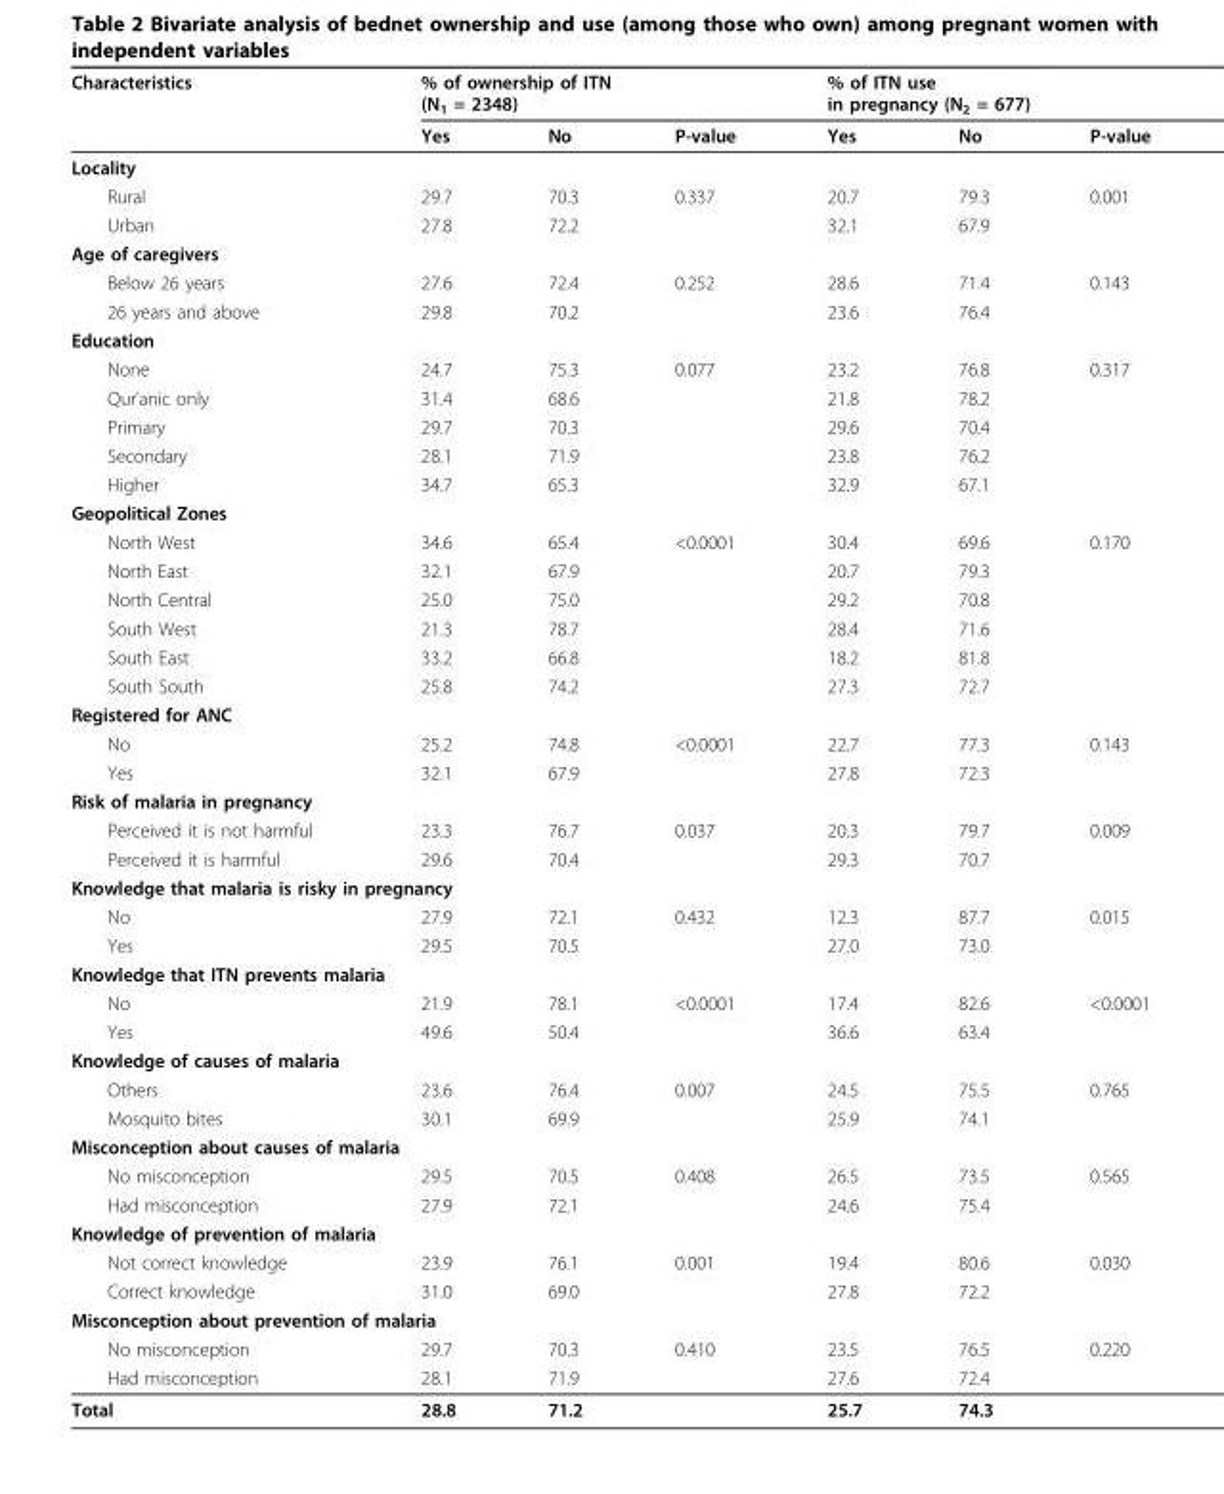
<table><thead><tr><td rowspan="2">Characteristics</td><td colspan="3">% of ownership of ITN (N<sub>1</sub> = 2348)</td><td colspan="3">% of ITN use in pregnancy (N<sub>2</sub> = 677)</td></tr><tr><td>Yes</td><td>No</td><td>P-value</td><td>Yes</td><td>No</td><td>P-value</td></tr></thead><tbody><tr><td colspan="7">Locality</td></tr><tr><td>Rural</td><td>29.7</td><td>70.3</td><td>0.337</td><td>20.7</td><td>79.3</td><td>0.001</td></tr><tr><td>Urban</td><td>27.8</td><td>72.2</td><td></td><td>32.1</td><td>67.9</td><td></td></tr><tr><td colspan="7">Age of caregivers</td></tr><tr><td>Below 26 years</td><td>27.6</td><td>72.4</td><td>0.252</td><td>28.6</td><td>71.4</td><td>0.143</td></tr><tr><td>26 years and above</td><td>29.8</td><td>70.2</td><td></td><td>23.6</td><td>76.4</td><td></td></tr><tr><td colspan="7">Education</td></tr><tr><td>None</td><td>24.7</td><td>75.3</td><td>0.077</td><td>23.2</td><td>76.8</td><td>0.317</td></tr><tr><td>Qur’anic only</td><td>31.4</td><td>68.6</td><td></td><td>21.8</td><td>78.2</td><td></td></tr><tr><td>Primary</td><td>29.7</td><td>70.3</td><td></td><td>29.6</td><td>70.4</td><td></td></tr><tr><td>Secondary</td><td>28.1</td><td>71.9</td><td></td><td>23.8</td><td>76.2</td><td></td></tr><tr><td>Higher</td><td>34.7</td><td>65.3</td><td></td><td>32.9</td><td>67.1</td><td></td></tr><tr><td colspan="7">Geopolitical Zones</td></tr><tr><td>North West</td><td>34.6</td><td>65.4</td><td>&lt;0.0001</td><td>30.4</td><td>69.6</td><td>0.170</td></tr><tr><td>North East</td><td>32.1</td><td>67.9</td><td></td><td>20.7</td><td>79.3</td><td></td></tr><tr><td>North Central</td><td>25.0</td><td>75.0</td><td></td><td>29.2</td><td>70.8</td><td></td></tr><tr><td>South West</td><td>21.3</td><td>78.7</td><td></td><td>28.4</td><td>71.6</td><td></td></tr><tr><td>South East</td><td>33.2</td><td>66.8</td><td></td><td>18.2</td><td>81.8</td><td></td></tr><tr><td>South South</td><td>25.8</td><td>74.2</td><td></td><td>27.3</td><td>72.7</td><td></td></tr><tr><td colspan="7">Registered for ANC</td></tr><tr><td>No</td><td>25.2</td><td>74.8</td><td>&lt;0.0001</td><td>22.7</td><td>77.3</td><td>0.143</td></tr><tr><td>Yes</td><td>32.1</td><td>67.9</td><td></td><td>27.8</td><td>72.3</td><td></td></tr><tr><td colspan="7">Risk of malaria in pregnancy</td></tr><tr><td>Perceived it is not harmful</td><td>23.3</td><td>76.7</td><td>0.037</td><td>20.3</td><td>79.7</td><td>0.009</td></tr><tr><td>Perceived it is harmful</td><td>29.6</td><td>70.4</td><td></td><td>29.3</td><td>70.7</td><td></td></tr><tr><td colspan="7">Knowledge that malaria is risky in pregnancy</td></tr><tr><td>No</td><td>27.9</td><td>72.1</td><td>0.432</td><td>12.3</td><td>87.7</td><td>0.015</td></tr><tr><td>Yes</td><td>29.5</td><td>70.5</td><td></td><td>27.0</td><td>73.0</td><td></td></tr><tr><td colspan="7">Knowledge that ITN prevents malaria</td></tr><tr><td>No</td><td>21.9</td><td>78.1</td><td>&lt;0.0001</td><td>17.4</td><td>82.6</td><td>&lt;0.0001</td></tr><tr><td>Yes</td><td>49.6</td><td>50.4</td><td></td><td>36.6</td><td>63.4</td><td></td></tr><tr><td colspan="7">Knowledge of causes of malaria</td></tr><tr><td>Others</td><td>23.6</td><td>76.4</td><td>0.007</td><td>24.5</td><td>75.5</td><td>0.765</td></tr><tr><td>Mosquito bites</td><td>30.1</td><td>69.9</td><td></td><td>25.9</td><td>74.1</td><td></td></tr><tr><td colspan="7">Misconception about causes of malaria</td></tr><tr><td>No misconception</td><td>29.5</td><td>70.5</td><td>0.408</td><td>26.5</td><td>73.5</td><td>0.565</td></tr><tr><td>Had misconception</td><td>27.9</td><td>72.1</td><td></td><td>24.6</td><td>75.4</td><td></td></tr><tr><td colspan="7">Knowledge of prevention of malaria</td></tr><tr><td>Not correct knowledge</td><td>23.9</td><td>76.1</td><td>0.001</td><td>19.4</td><td>80.6</td><td>0.030</td></tr><tr><td>Correct knowledge</td><td>31.0</td><td>69.0</td><td></td><td>27.8</td><td>72.2</td><td></td></tr><tr><td colspan="7">Misconception about prevention of malaria</td></tr><tr><td>No misconception</td><td>29.7</td><td>70.3</td><td>0.410</td><td>23.5</td><td>76.5</td><td>0.220</td></tr><tr><td>Had misconception</td><td>28.1</td><td>71.9</td><td></td><td>27.6</td><td>72.4</td><td></td></tr><tr><td>Total</td><td>28.8</td><td>71.2</td><td></td><td>25.7</td><td>74.3</td><td></td></tr></tbody></table>